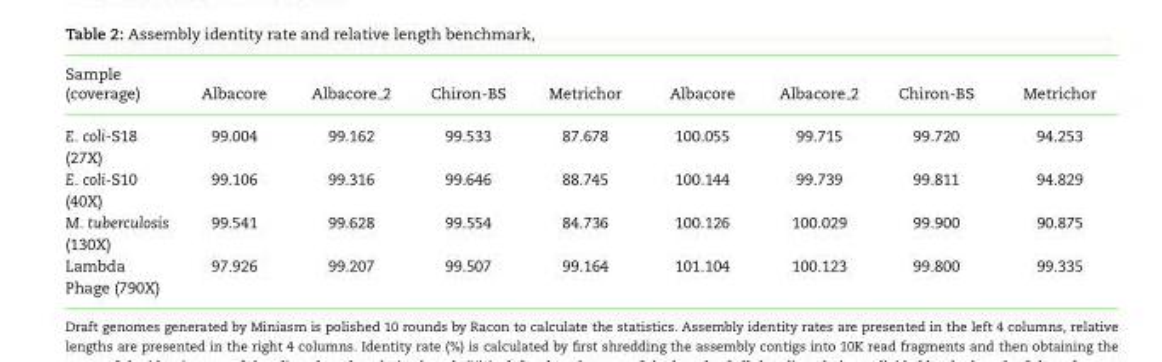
<table><thead><tr><td>Sample (coverage)</td><td>Albacore</td><td>Albacore 2</td><td>Chiron-BS</td><td>Metrichor</td><td>Albacore</td><td>Albacore 2</td><td>Chiron-BS</td><td>Metrichor</td></tr></thead><tbody><tr><td>E. coli-S18 (27X)</td><td>99.004</td><td>99.162</td><td>99.533</td><td>87.678</td><td>100.055</td><td>99.715</td><td>99.720</td><td>94.253</td></tr><tr><td>E. coli-S10 (40X)</td><td>99.106</td><td>99.316</td><td>99.646</td><td>88.745</td><td>100.144</td><td>99.739</td><td>99.811</td><td>94.829</td></tr><tr><td>M. tuberculosis (130X)</td><td>99.541</td><td>99.628</td><td>99.554</td><td>84.736</td><td>100.126</td><td>100.029</td><td>99.900</td><td>90.875</td></tr><tr><td>Lambda Phage (790X)</td><td>97.926</td><td>99.207</td><td>99.507</td><td>99.164</td><td>101.104</td><td>100.123</td><td>99.800</td><td>99.335</td></tr></tbody></table>